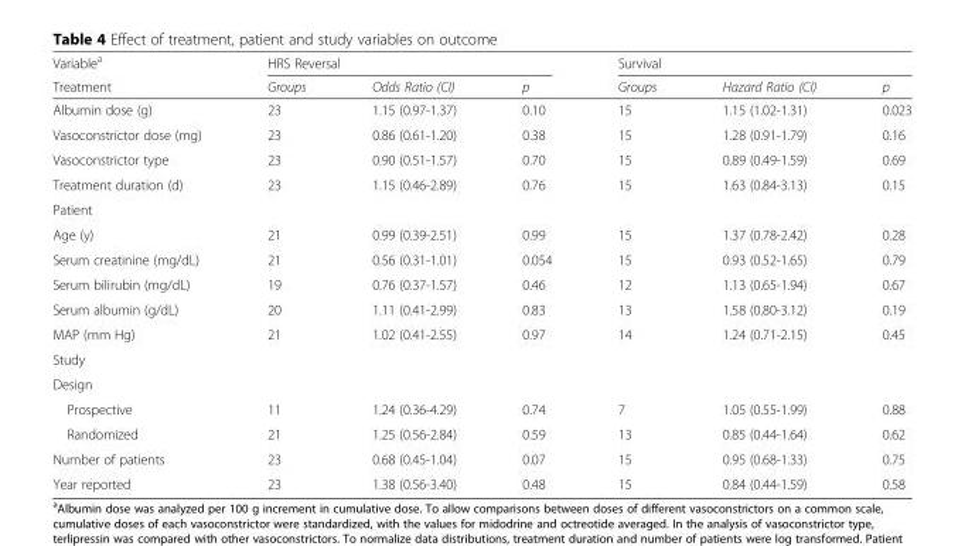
<table><thead><tr><td rowspan="2">Variable<sup>a</sup> Treatment</td><td colspan="3">HRS Reversal</td><td colspan="3">Survival</td></tr><tr><td>Groups</td><td>Odds Ratio (CI)</td><td>p</td><td>Groups</td><td>Hazard Ratio (CI)</td><td>p</td></tr></thead><tbody><tr><td>Albumin dose (g)</td><td>23</td><td>1.15 (0.97-1.37)</td><td>0.10</td><td>15</td><td>1.15 (1.02-1.31)</td><td>0.023</td></tr><tr><td>Vasoconstrictor dose (mg)</td><td>23</td><td>0.86 (0.61-1.20)</td><td>0.38</td><td>15</td><td>1.28 (0.91-1.79)</td><td>0.16</td></tr><tr><td>Vasoconstrictor type</td><td>23</td><td>0.90 (0.51-1.57)</td><td>0.70</td><td>15</td><td>0.89 (0.49-1.59)</td><td>0.69</td></tr><tr><td>Treatment duration (d)</td><td>23</td><td>1.15 (0.46-2.89)</td><td>0.76</td><td>15</td><td>1.63 (0.84-3.13)</td><td>0.15</td></tr><tr><td colspan="7">Patient</td></tr><tr><td>Age (y)</td><td>21</td><td>0.99 (0.39-2.51)</td><td>0.99</td><td>15</td><td>1.37 (0.78-2.42)</td><td>0.28</td></tr><tr><td>Serum creatinine (mg/dL)</td><td>21</td><td>0.56 (0.31-1.01)</td><td>0.054</td><td>15</td><td>0.93 (0.52-1.65)</td><td>0.79</td></tr><tr><td>Serum bilirubin (mg/dL)</td><td>19</td><td>0.76 (0.37-1.57)</td><td>0.46</td><td>12</td><td>1.13 (0.65-1.94)</td><td>0.67</td></tr><tr><td>Serum albumin (g/dL)</td><td>20</td><td>1.11 (0.41-2.99)</td><td>0.83</td><td>13</td><td>1.58 (0.80-3.12)</td><td>0.19</td></tr><tr><td>MAP (mm Hg)</td><td>21</td><td>1.02 (0.41-2.55)</td><td>0.97</td><td>14</td><td>1.24 (0.71-2.15)</td><td>0.45</td></tr><tr><td colspan="7">Study</td></tr><tr><td colspan="7">Design</td></tr><tr><td>Prospective</td><td>11</td><td>1.24 (0.36-4.29)</td><td>0.74</td><td>7</td><td>1.05 (0.55-1.99)</td><td>0.88</td></tr><tr><td>Randomized</td><td>21</td><td>1.25 (0.56-2.84)</td><td>0.59</td><td>13</td><td>0.85 (0.44-1.64)</td><td>0.62</td></tr><tr><td>Number of patients</td><td>23</td><td>0.68 (0.45-1.04)</td><td>0.07</td><td>15</td><td>0.95 (0.68-1.33)</td><td>0.75</td></tr><tr><td>Year reported</td><td>23</td><td>1.38 (0.56-3.40)</td><td>0.48</td><td>15</td><td>0.84 (0.44-1.59)</td><td>0.58</td></tr></tbody></table>